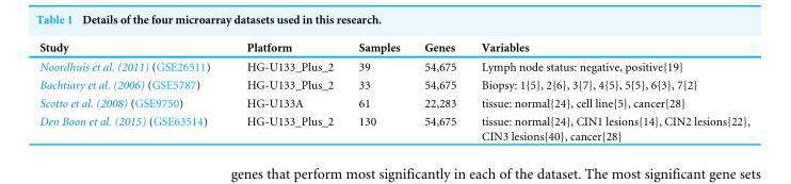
<table><thead><tr><td>Study</td><td>Platform</td><td>Samples</td><td>Genes</td><td>Variables</td></tr></thead><tbody><tr><td>Noordhuis et al. (2011) (GSE26511)</td><td>HG-U133_Plus_2</td><td>39</td><td>54,675</td><td>Lymph node status: negative, positive{19}</td></tr><tr><td>Bachtiary et al. (2006) (GSE5787)</td><td>HG-U133_Plus_2</td><td>33</td><td>54,675</td><td>Biopsy: 1{5}, 2{6}, 3{7}, 4{5}, 5{5}, 6{3}, 7{2}</td></tr><tr><td>Scotto et al. (2008) (GSE9750)</td><td>HG-U133A</td><td>61</td><td>22,283</td><td>tissue: normal{24}, cell line{5}, cancer{28}</td></tr><tr><td>Den Boon et al. (2015) (GSE63514)</td><td>HG-U133_Plus_2</td><td>130</td><td>54,675</td><td>tissue: normal{24}, CIN1 lesions{14}, CIN2 lesions{22}, CIN3 lesions{40}, cancer{28}</td></tr></tbody></table>